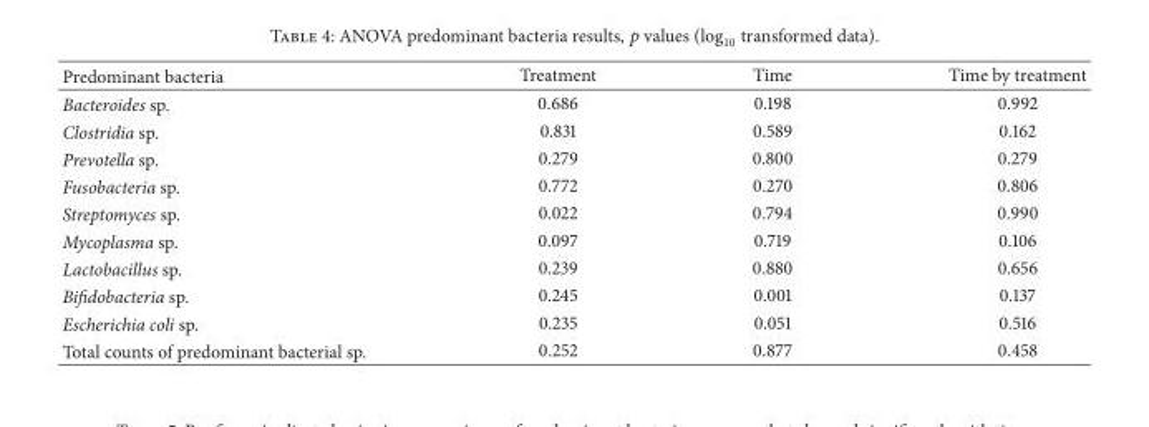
<table><thead><tr><td>Predominant bacteria</td><td>Treatment</td><td>Time</td><td>Time by treatment</td></tr></thead><tbody><tr><td>Bacteroides sp.</td><td>0.686</td><td>0.198</td><td>0.992</td></tr><tr><td>Clostridia sp.</td><td>0.831</td><td>0.589</td><td>0.162</td></tr><tr><td>Prevotella sp.</td><td>0.279</td><td>0.800</td><td>0.279</td></tr><tr><td>Fusobacteria sp.</td><td>0.772</td><td>0.270</td><td>0.806</td></tr><tr><td>Streptomyces sp.</td><td>0.022</td><td>0.794</td><td>0.990</td></tr><tr><td>Mycoplasma sp.</td><td>0.097</td><td>0.719</td><td>0.106</td></tr><tr><td>Lactobacillus sp.</td><td>0.239</td><td>0.880</td><td>0.656</td></tr><tr><td>Bifidobacteria sp.</td><td>0.245</td><td>0.001</td><td>0.137</td></tr><tr><td>Escherichia coli sp.</td><td>0.235</td><td>0.051</td><td>0.516</td></tr><tr><td>Total counts of predominant bacterial sp.</td><td>0.252</td><td>0.877</td><td>0.458</td></tr></tbody></table>